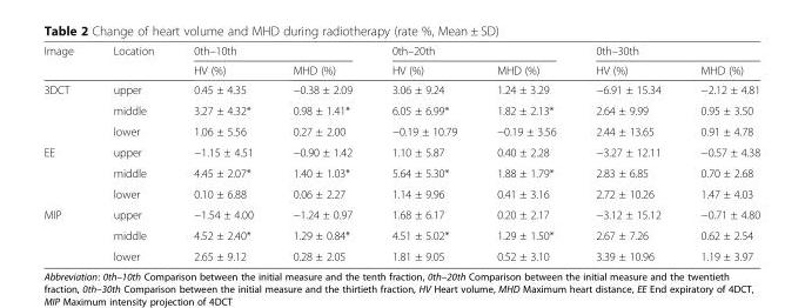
<table><thead><tr><td rowspan="2">Image</td><td rowspan="2">Location</td><td colspan="2">0th–10th</td><td colspan="2">0th–20th</td><td colspan="2">0th–30th</td></tr><tr><td>HV (%)</td><td>MHD (%)</td><td>HV (%)</td><td>MHD (%)</td><td>HV (%)</td><td>MHD (%)</td></tr></thead><tbody><tr><td rowspan="3">3DCT</td><td>upper</td><td>0.45 ± 4.35</td><td>−0.38 ± 2.09</td><td>3.06 ± 9.24</td><td>1.24 ± 3.29</td><td>−6.91 ± 15.34</td><td>−2.12 ± 4.81</td></tr><tr><td>middle</td><td>3.27 ± 4.32*</td><td>0.98 ± 1.41*</td><td>6.05 ± 6.99*</td><td>1.82 ± 2.13*</td><td>2.64 ± 9.99</td><td>0.95 ± 3.50</td></tr><tr><td>lower</td><td>1.06 ± 5.56</td><td>0.27 ± 2.00</td><td>−0.19 ± 10.79</td><td>−0.19 ± 3.56</td><td>2.44 ± 13.65</td><td>0.91 ± 4.78</td></tr><tr><td rowspan="3">EE</td><td>upper</td><td>−1.15 ± 4.51</td><td>−0.90 ± 1.42</td><td>1.10 ± 5.87</td><td>0.40 ± 2.28</td><td>−3.27 ± 12.11</td><td>−0.57 ± 4.38</td></tr><tr><td>middle</td><td>4.45 ± 2.07*</td><td>1.40 ± 1.03*</td><td>5.64 ± 5.30*</td><td>1.88 ± 1.79*</td><td>2.83 ± 6.85</td><td>0.70 ± 2.68</td></tr><tr><td>lower</td><td>0.10 ± 6.88</td><td>0.06 ± 2.27</td><td>1.14 ± 9.96</td><td>0.41 ± 3.16</td><td>2.72 ± 10.26</td><td>1.47 ± 4.03</td></tr><tr><td rowspan="3">MIP</td><td>upper</td><td>−1.54 ± 4.00</td><td>−1.24 ± 0.97</td><td>1.68 ± 6.17</td><td>0.20 ± 2.17</td><td>−3.12 ± 15.12</td><td>−0.71 ± 4.80</td></tr><tr><td>middle</td><td>4.52 ± 2.40*</td><td>1.29 ± 0.84*</td><td>4.51 ± 5.02*</td><td>1.29 ± 1.50*</td><td>2.67 ± 7.26</td><td>0.62 ± 2.54</td></tr><tr><td>lower</td><td>2.65 ± 9.12</td><td>0.28 ± 2.05</td><td>1.81 ± 9.05</td><td>0.52 ± 3.10</td><td>3.39 ± 10.96</td><td>1.19 ± 3.97</td></tr></tbody></table>